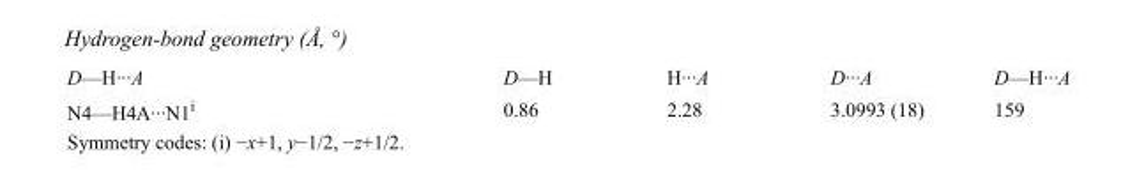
<table><tbody><tr><td>D—H···A</td><td>D—H</td><td>H···A</td><td>D···A</td><td>D—H···A</td></tr><tr><td>N4—H4A···N1<sup>i</sup></td><td>0.86</td><td>2.28</td><td>3.0993 (18)</td><td>159</td></tr></tbody></table>